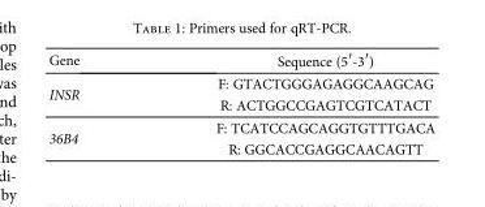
<table><thead><tr><td>Gene</td><td>Sequence (5′-3′)</td></tr></thead><tbody><tr><td rowspan="2">INSR</td><td>F: GTACTGGGAGAGGCAAGCAG</td></tr><tr><td>R: ACTGGCCGAGTCGTCATACT</td></tr><tr><td rowspan="2">36B4</td><td>F: TCATCCAGCAGGTGTTTGACA</td></tr><tr><td>R: GGCACCGAGGCAACAGTT</td></tr></tbody></table>